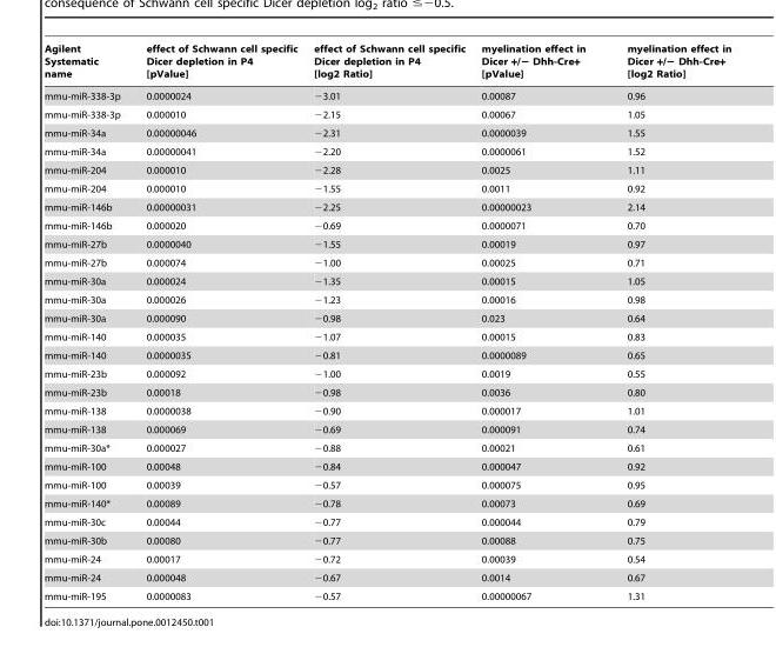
<table><thead><tr><td>Agilent Systematic name</td><td>effect of Schwann cell specific Dicer depletion in P4 [pValue]</td><td>effect of Schwann cell specific Dicer depletion in P4 [log2 Ratio]</td><td>myelination effect in Dicer +/− Dhh-Cre+ [pValue]</td><td>myelination effect in Dicer +/− Dhh-Cre+ [log2 Ratio]</td></tr></thead><tbody><tr><td>mmu-miR-338-3p</td><td>0.0000024</td><td>−3.01</td><td>0.00087</td><td>0.96</td></tr><tr><td>mmu-miR-338-3p</td><td>0.000010</td><td>−2.15</td><td>0.00067</td><td>1.05</td></tr><tr><td>mmu-miR-34a</td><td>0.00000046</td><td>−2.31</td><td>0.0000039</td><td>1.55</td></tr><tr><td>mmu-miR-34a</td><td>0.00000041</td><td>−2.20</td><td>0.0000061</td><td>1.52</td></tr><tr><td>mmu-miR-204</td><td>0.000010</td><td>−2.28</td><td>0.0025</td><td>1.11</td></tr><tr><td>mmu-miR-204</td><td>0.000010</td><td>−1.55</td><td>0.0011</td><td>0.92</td></tr><tr><td>mmu-miR-146b</td><td>0.00000031</td><td>−2.25</td><td>0.00000023</td><td>2.14</td></tr><tr><td>mmu-miR-146b</td><td>0.000020</td><td>−0.69</td><td>0.0000071</td><td>0.70</td></tr><tr><td>mmu-miR-27b</td><td>0.0000040</td><td>−1.55</td><td>0.00019</td><td>0.97</td></tr><tr><td>mmu-miR-27b</td><td>0.000074</td><td>−1.00</td><td>0.00025</td><td>0.71</td></tr><tr><td>mmu-miR-30a</td><td>0.000024</td><td>−1.35</td><td>0.00015</td><td>1.05</td></tr><tr><td>mmu-miR-30a</td><td>0.000026</td><td>−1.23</td><td>0.00016</td><td>0.98</td></tr><tr><td>mmu-miR-30a</td><td>0.000090</td><td>−0.98</td><td>0.023</td><td>0.64</td></tr><tr><td>mmu-miR-140</td><td>0.000035</td><td>−1.07</td><td>0.00015</td><td>0.83</td></tr><tr><td>mmu-miR-140</td><td>0.0000035</td><td>−0.81</td><td>0.0000089</td><td>0.65</td></tr><tr><td>mmu-miR-23b</td><td>0.000092</td><td>−1.00</td><td>0.0019</td><td>0.55</td></tr><tr><td>mmu-miR-23b</td><td>0.00018</td><td>−0.98</td><td>0.0036</td><td>0.80</td></tr><tr><td>mmu-miR-138</td><td>0.0000038</td><td>−0.90</td><td>0.000017</td><td>1.01</td></tr><tr><td>mmu-miR-138</td><td>0.000069</td><td>−0.69</td><td>0.000091</td><td>0.74</td></tr><tr><td>mmu-miR-30a*</td><td>0.000027</td><td>−0.88</td><td>0.00021</td><td>0.61</td></tr><tr><td>mmu-miR-100</td><td>0.00048</td><td>−0.84</td><td>0.000047</td><td>0.92</td></tr><tr><td>mmu-miR-100</td><td>0.00039</td><td>−0.57</td><td>0.000075</td><td>0.95</td></tr><tr><td>mmu-miR-140*</td><td>0.00089</td><td>−0.78</td><td>0.00073</td><td>0.69</td></tr><tr><td>mmu-miR-30c</td><td>0.00044</td><td>−0.77</td><td>0.000044</td><td>0.79</td></tr><tr><td>mmu-miR-30b</td><td>0.00080</td><td>−0.77</td><td>0.00088</td><td>0.75</td></tr><tr><td>mmu-miR-24</td><td>0.00017</td><td>−0.72</td><td>0.00039</td><td>0.54</td></tr><tr><td>mmu-miR-24</td><td>0.000048</td><td>−0.67</td><td>0.0014</td><td>0.67</td></tr><tr><td>mmu-miR-195</td><td>0.0000083</td><td>−0.57</td><td>0.00000067</td><td>1.31</td></tr></tbody></table>